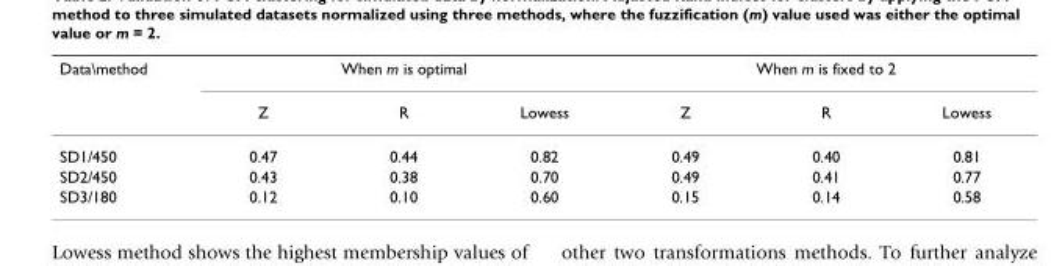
<table><thead><tr><td rowspan="2">Data\method</td><td colspan="3">When m is optimal</td><td colspan="3">When m is fixed to 2</td></tr><tr><td>Z</td><td>R</td><td>Lowess</td><td>Z</td><td>R</td><td>Lowess</td></tr></thead><tbody><tr><td>SD1/450</td><td>0.47</td><td>0.44</td><td>0.82</td><td>0.49</td><td>0.40</td><td>0.81</td></tr><tr><td>SD2/450</td><td>0.43</td><td>0.38</td><td>0.70</td><td>0.49</td><td>0.41</td><td>0.77</td></tr><tr><td>SD3/180</td><td>0.12</td><td>0.10</td><td>0.60</td><td>0.15</td><td>0.14</td><td>0.58</td></tr></tbody></table>